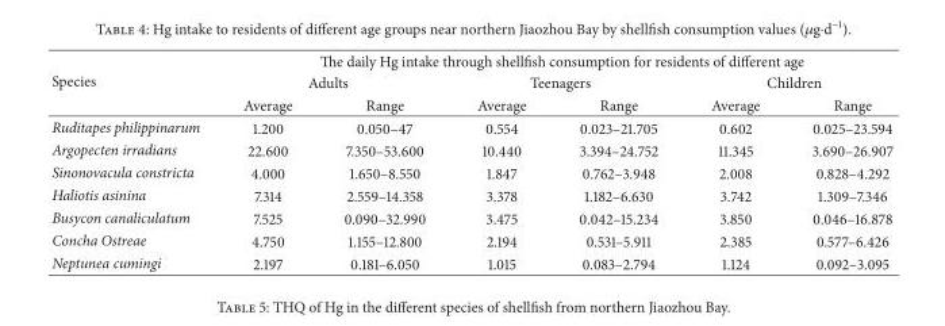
<table><thead><tr><td rowspan="3">Species</td><td colspan="6">The daily Hg intake through shellfish consumption for residents of different age</td></tr><tr><td colspan="2">Adults</td><td colspan="2">Teenagers</td><td colspan="2">Children</td></tr><tr><td>Average</td><td>Range</td><td>Average</td><td>Range</td><td>Average</td><td>Range</td></tr></thead><tbody><tr><td>Ruditapes philippinarum</td><td>1.200</td><td>0.050–47</td><td>0.554</td><td>0.023–21.705</td><td>0.602</td><td>0.025–23.594</td></tr><tr><td>Argopecten irradians</td><td>22.600</td><td>7.350–53.600</td><td>10.440</td><td>3.394–24.752</td><td>11.345</td><td>3.690–26.907</td></tr><tr><td>Sinonovacula constricta</td><td>4.000</td><td>1.650–8.550</td><td>1.847</td><td>0.762–3.948</td><td>2.008</td><td>0.828–4.292</td></tr><tr><td>Haliotis asinina</td><td>7.314</td><td>2.559–14.358</td><td>3.378</td><td>1.182–6.630</td><td>3.742</td><td>1.309–7.346</td></tr><tr><td>Busycon canaliculatum</td><td>7.525</td><td>0.090–32.990</td><td>3.475</td><td>0.042–15.234</td><td>3.850</td><td>0.046–16.878</td></tr><tr><td>Concha Ostreae</td><td>4.750</td><td>1.155–12.800</td><td>2.194</td><td>0.531–5.911</td><td>2.385</td><td>0.577–6.426</td></tr><tr><td>Neptunea cumingi</td><td>2.197</td><td>0.181–6.050</td><td>1.015</td><td>0.083–2.794</td><td>1.124</td><td>0.092–3.095</td></tr></tbody></table>